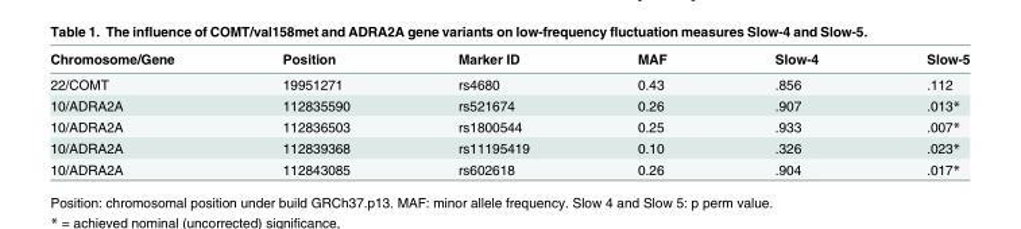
<table><thead><tr><td>Chromosome/Gene</td><td>Position</td><td>Marker ID</td><td>MAF</td><td>Slow-4</td><td>Slow-5</td></tr></thead><tbody><tr><td>22/COMT</td><td>19951271</td><td>rs4680</td><td>0.43</td><td>.856</td><td>.112</td></tr><tr><td>10/ADRA2A</td><td>112835590</td><td>rs521674</td><td>0.26</td><td>.907</td><td>.013*</td></tr><tr><td>10/ADRA2A</td><td>112836503</td><td>rs1800544</td><td>0.25</td><td>.933</td><td>.007*</td></tr><tr><td>10/ADRA2A</td><td>112839368</td><td>rs11195419</td><td>0.10</td><td>.326</td><td>.023*</td></tr><tr><td>10/ADRA2A</td><td>112843085</td><td>rs602618</td><td>0.26</td><td>.904</td><td>.017*</td></tr></tbody></table>